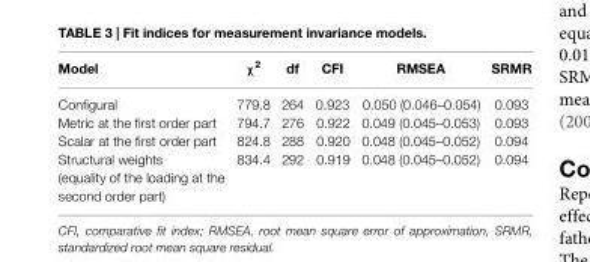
<table><thead><tr><td>Model</td><td>χ<sup>2</sup></td><td>df</td><td>CFI</td><td>RMSEA</td><td>SRMR</td></tr></thead><tbody><tr><td>Configural</td><td>779.8</td><td>264</td><td>0.923</td><td>0.050 (0.046–0.054)</td><td>0.093</td></tr><tr><td>Metric at the first order part</td><td>794.7</td><td>276</td><td>0.922</td><td>0.049 (0.045–0.053)</td><td>0.093</td></tr><tr><td>Scalar at the first order part</td><td>824.8</td><td>288</td><td>0.920</td><td>0.048 (0.045–0.052)</td><td>0.094</td></tr><tr><td>Structural weights (equality of the loading at the second order part)</td><td>834.4</td><td>292</td><td>0.919</td><td>0.048 (0.045–0.052)</td><td>0.094</td></tr></tbody></table>